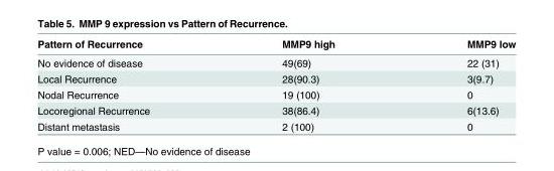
<table><thead><tr><td>Pattern of Recurrence</td><td>MMP9 high</td><td>MMP9 low</td></tr></thead><tbody><tr><td>No evidence of disease</td><td>49(69)</td><td>22 (31)</td></tr><tr><td>Local Recurrence</td><td>28(90.3)</td><td>3(9.7)</td></tr><tr><td>Nodal Recurrence</td><td>19 (100)</td><td>0</td></tr><tr><td>Locoregional Recurrence</td><td>38(86.4)</td><td>6(13.6)</td></tr><tr><td>Distant metastasis</td><td>2 (100)</td><td>0</td></tr></tbody></table>